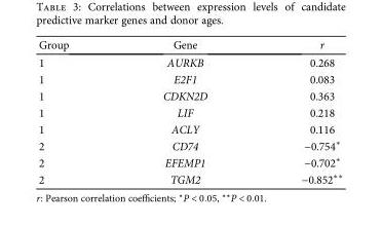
<table><thead><tr><td>Group</td><td>Gene</td><td>r</td></tr></thead><tbody><tr><td>1</td><td>AURKB</td><td>0.268</td></tr><tr><td>1</td><td>E2F1</td><td>0.083</td></tr><tr><td>1</td><td>CDKN2D</td><td>0.363</td></tr><tr><td>1</td><td>LIF</td><td>0.218</td></tr><tr><td>1</td><td>ACLY</td><td>0.116</td></tr><tr><td>2</td><td>CD74</td><td>−0.754∗</td></tr><tr><td>2</td><td>EFEMP1</td><td>−0.702∗</td></tr><tr><td>2</td><td>TGM2</td><td>−0.852∗∗</td></tr></tbody></table>